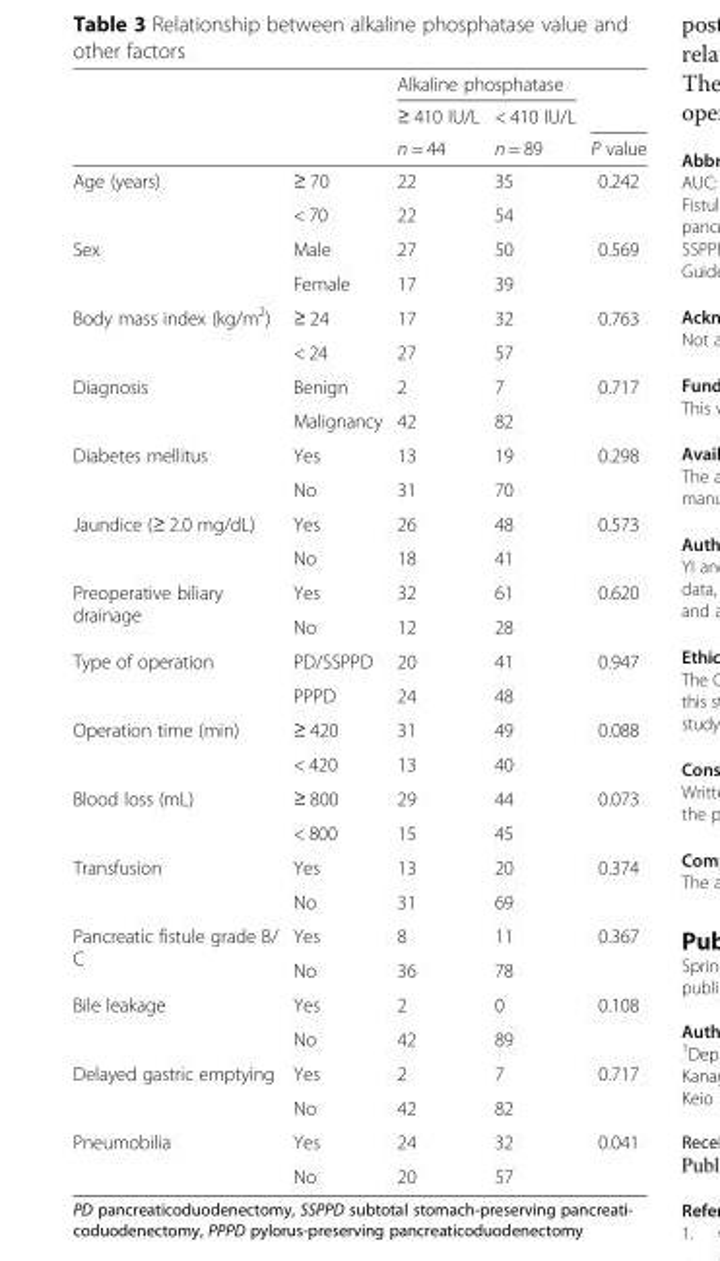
<table><thead><tr><td rowspan="3"></td><td rowspan="3"></td><td colspan="2">Alkaline phosphatase</td><td rowspan="3">P value</td></tr><tr><td rowspan="2">≥ 410 IU/L n = 44</td><td rowspan="2">&lt; 410 IU/L n = 89</td></tr><tr></tr></thead><tbody><tr><td rowspan="2">Age (years)</td><td>≥ 70</td><td>22</td><td>35</td><td>0.242</td></tr><tr><td>&lt; 70</td><td>22</td><td>54</td><td></td></tr><tr><td rowspan="2">Sex</td><td>Male</td><td>27</td><td>50</td><td>0.569</td></tr><tr><td>Female</td><td>17</td><td>39</td><td></td></tr><tr><td rowspan="2">Body mass index (kg/m<sup>2</sup>)</td><td>≥ 24</td><td>17</td><td>32</td><td>0.763</td></tr><tr><td>&lt; 24</td><td>27</td><td>57</td><td></td></tr><tr><td rowspan="2">Diagnosis</td><td>Benign</td><td>2</td><td>7</td><td>0.717</td></tr><tr><td>Malignancy</td><td>42</td><td>82</td><td></td></tr><tr><td rowspan="2">Diabetes mellitus</td><td>Yes</td><td>13</td><td>19</td><td>0.298</td></tr><tr><td>No</td><td>31</td><td>70</td><td></td></tr><tr><td rowspan="2">Jaundice (≥ 2.0 mg/dL)</td><td>Yes</td><td>26</td><td>48</td><td>0.573</td></tr><tr><td>No</td><td>18</td><td>41</td><td></td></tr><tr><td rowspan="2">Preoperative biliary drainage</td><td>Yes</td><td>32</td><td>61</td><td>0.620</td></tr><tr><td>No</td><td>12</td><td>28</td><td></td></tr><tr><td rowspan="2">Type of operation</td><td>PD/SSPPD</td><td>20</td><td>41</td><td>0.947</td></tr><tr><td>PPPD</td><td>24</td><td>48</td><td></td></tr><tr><td rowspan="2">Operation time (min)</td><td>≥ 420</td><td>31</td><td>49</td><td>0.088</td></tr><tr><td>&lt; 420</td><td>13</td><td>40</td><td></td></tr><tr><td rowspan="2">Blood loss (mL)</td><td>≥ 800</td><td>29</td><td>44</td><td>0.073</td></tr><tr><td>&lt; 800</td><td>15</td><td>45</td><td></td></tr><tr><td rowspan="2">Transfusion</td><td>Yes</td><td>13</td><td>20</td><td>0.374</td></tr><tr><td>No</td><td>31</td><td>69</td><td></td></tr><tr><td rowspan="2">Pancreatic fistule grade B/ C</td><td>Yes</td><td>8</td><td>11</td><td>0.367</td></tr><tr><td>No</td><td>36</td><td>78</td><td></td></tr><tr><td rowspan="2">Bile leakage</td><td>Yes</td><td>2</td><td>0</td><td>0.108</td></tr><tr><td>No</td><td>42</td><td>89</td><td></td></tr><tr><td rowspan="2">Delayed gastric emptying</td><td>Yes</td><td>2</td><td>7</td><td>0.717</td></tr><tr><td>No</td><td>42</td><td>82</td><td></td></tr><tr><td rowspan="2">Pneumobilia</td><td>Yes</td><td>24</td><td>32</td><td>0.041</td></tr><tr><td>No</td><td>20</td><td>57</td><td></td></tr></tbody></table>